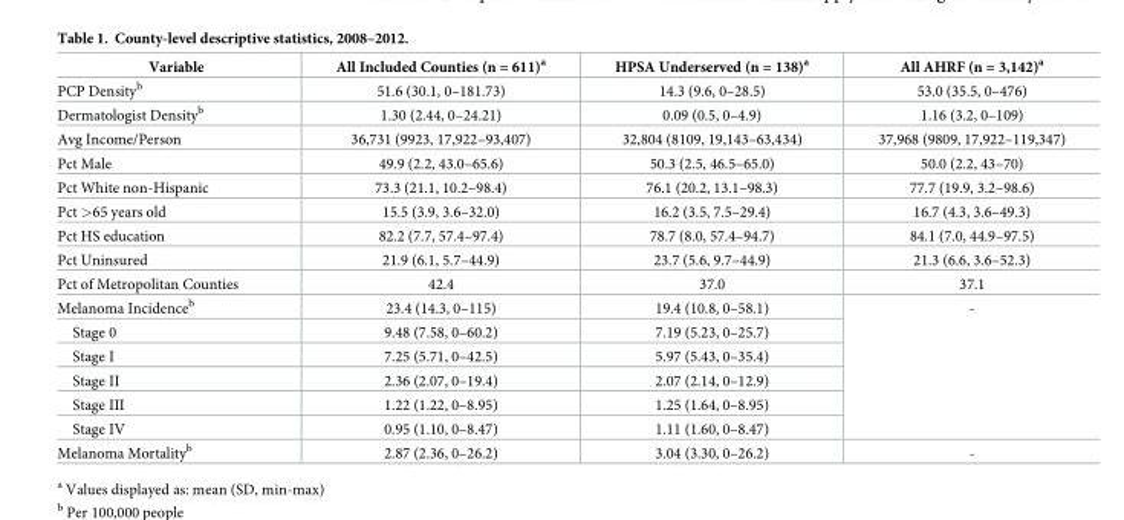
<table><thead><tr><td>Variable</td><td>All Included Counties (n = 611)<sup>a</sup></td><td>HPSA Underserved (n = 138)<sup>a</sup></td><td>All AHRF (n = 3,142)<sup>a</sup></td></tr></thead><tbody><tr><td>PCP Density<sup>b</sup></td><td>51.6 (30.1, 0–181.73)</td><td>14.3 (9.6, 0–28.5)</td><td>53.0 (35.5, 0–476)</td></tr><tr><td>Dermatologist Density<sup>b</sup></td><td>1.30 (2.44, 0–24.21)</td><td>0.09 (0.5, 0–4.9)</td><td>1.16 (3.2, 0–109)</td></tr><tr><td>Avg Income/Person</td><td>36,731 (9923, 17,922–93,407)</td><td>32,804 (8109, 19,143–63,434)</td><td>37,968 (9809, 17,922–119,347)</td></tr><tr><td>Pct Male</td><td>49.9 (2.2, 43.0–65.6)</td><td>50.3 (2.5, 46.5–65.0)</td><td>50.0 (2.2, 43–70)</td></tr><tr><td>Pct White non-Hispanic</td><td>73.3 (21.1, 10.2–98.4)</td><td>76.1 (20.2, 13.1–98.3)</td><td>77.7 (19.9, 3.2–98.6)</td></tr><tr><td>Pct &gt;65 years old</td><td>15.5 (3.9, 3.6–32.0)</td><td>16.2 (3.5, 7.5–29.4)</td><td>16.7 (4.3, 3.6–49.3)</td></tr><tr><td>Pct HS education</td><td>82.2 (7.7, 57.4–97.4)</td><td>78.7 (8.0, 57.4–94.7)</td><td>84.1 (7.0, 44.9–97.5)</td></tr><tr><td>Pct Uninsured</td><td>21.9 (6.1, 5.7–44.9)</td><td>23.7 (5.6, 9.7–44.9)</td><td>21.3 (6.6, 3.6–52.3)</td></tr><tr><td>Pct of Metropolitan Counties</td><td>42.4</td><td>37.0</td><td>37.1</td></tr><tr><td>Melanoma Incidence<sup>b</sup></td><td>23.4 (14.3, 0–115)</td><td>19.4 (10.8, 0–58.1)</td><td rowspan="6">-</td></tr><tr><td>Stage 0</td><td>9.48 (7.58, 0–60.2)</td><td>7.19 (5.23, 0–25.7)</td></tr><tr><td>Stage I</td><td>7.25 (5.71, 0–42.5)</td><td>5.97 (5.43, 0–35.4)</td></tr><tr><td>Stage II</td><td>2.36 (2.07, 0–19.4)</td><td>2.07 (2.14, 0–12.9)</td></tr><tr><td>Stage III</td><td>1.22 (1.22, 0–8.95)</td><td>1.25 (1.64, 0–8.95)</td></tr><tr><td>Stage IV</td><td>0.95 (1.10, 0–8.47)</td><td>1.11 (1.60, 0–8.47)</td></tr><tr><td>Melanoma Mortality<sup>b</sup></td><td>2.87 (2.36, 0–26.2)</td><td>3.04 (3.30, 0–26.2)</td><td>-</td></tr></tbody></table>